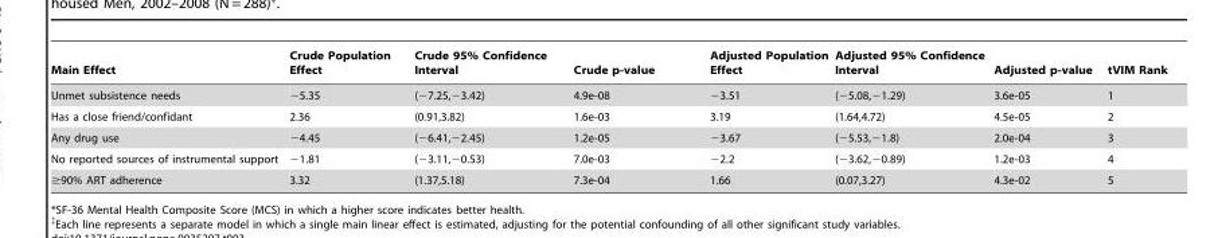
<table><thead><tr><td>Main Effect</td><td>Crude Population Effect</td><td>Crude 95% Confidence Interval</td><td>Crude p-value</td><td>Adjusted Population Effect</td><td>Adjusted 95% Confidence Interval</td><td>Adjusted p-value</td><td>tVIM Rank</td></tr></thead><tbody><tr><td>Unmet subsistence needs</td><td>−5.35</td><td>(−7.25,−3.42)</td><td>4.9e-08</td><td>−3.51</td><td>(−5.08,−1.29)</td><td>3.6e-05</td><td>1</td></tr><tr><td>Has a close friend/confidant</td><td>2.36</td><td>(0.91,3.82)</td><td>1.6e-03</td><td>3.19</td><td>(1.64,4.72)</td><td>4.5e-05</td><td>2</td></tr><tr><td>Any drug use</td><td>−4.45</td><td>(−6.41,−2.45)</td><td>1.2e-05</td><td>−3.67</td><td>(−5.53,−1.8)</td><td>2.0e-04</td><td>3</td></tr><tr><td>No reported sources of instrumental support</td><td>−1.81</td><td>(−3.11,−0.53)</td><td>7.0e-03</td><td>−2.2</td><td>(−3.62,−0.89)</td><td>1.2e-03</td><td>4</td></tr><tr><td>≥90% ART adherence</td><td>3.32</td><td>(1.37,5.18)</td><td>7.3e-04</td><td>1.66</td><td>(0.07,3.27)</td><td>4.3e-02</td><td>5</td></tr></tbody></table>